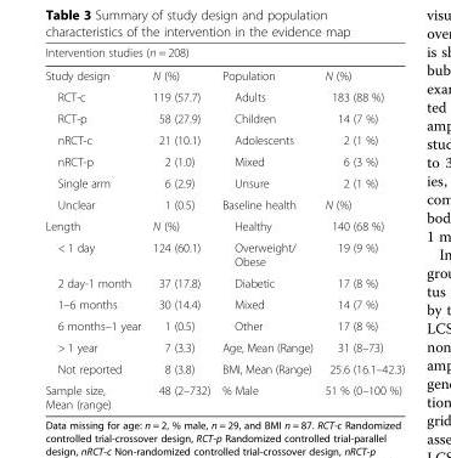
<table><thead><tr><td colspan="4">Intervention studies (n = 208)</td></tr><tr><td>Study design</td><td>N (%)</td><td>Population</td><td>N (%)</td></tr></thead><tbody><tr><td>RCT-c</td><td>119 (57.7)</td><td>Adults</td><td>183 (88 %)</td></tr><tr><td>RCT-p</td><td>58 (27.9)</td><td>Children</td><td>14 (7 %)</td></tr><tr><td>nRCT-c</td><td>21 (10.1)</td><td>Adolescents</td><td>2 (1 %)</td></tr><tr><td>nRCT-p</td><td>2 (1.0)</td><td>Mixed</td><td>6 (3 %)</td></tr><tr><td>Single arm</td><td>6 (2.9)</td><td>Unsure</td><td>2 (1 %)</td></tr><tr><td>Unclear</td><td>1 (0.5)</td><td>Baseline health</td><td>N (%)</td></tr><tr><td>Length</td><td>N (%)</td><td>Healthy</td><td>140 (68 %)</td></tr><tr><td>&lt; 1 day</td><td>124 (60.1)</td><td>Overweight/ Obese</td><td>19 (9 %)</td></tr><tr><td>2 day-1 month</td><td>37 (17.8)</td><td>Diabetic</td><td>17 (8 %)</td></tr><tr><td>1–6 months</td><td>30 (14.4)</td><td>Mixed</td><td>14 (7 %)</td></tr><tr><td>6 months–1 year</td><td>1 (0.5)</td><td>Other</td><td>17 (8 %)</td></tr><tr><td>&gt; 1 year</td><td>7 (3.3)</td><td>Age, Mean (Range)</td><td>31 (8–73)</td></tr><tr><td>Not reported</td><td>8 (3.8)</td><td>BMI, Mean (Range)</td><td>25.6 (16.1–42.3)</td></tr><tr><td>Sample size, Mean (range)</td><td>48 (2–732)</td><td>% Male</td><td>51 % (0–100 %)</td></tr></tbody></table>